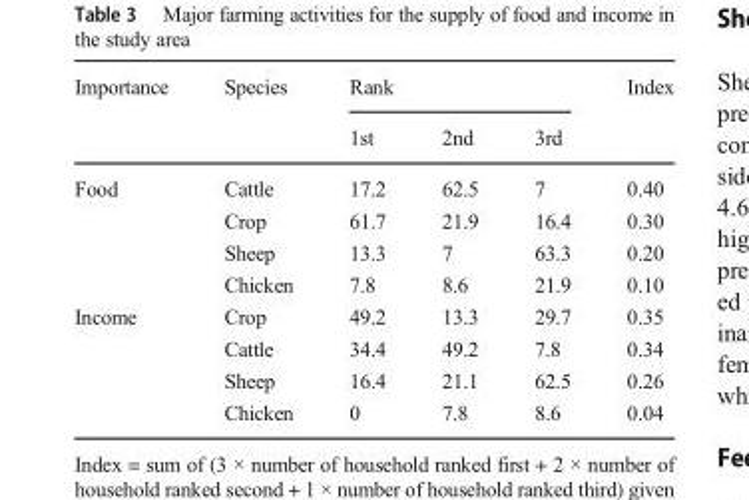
<table><thead><tr><td rowspan="2">Importance</td><td rowspan="2">Species</td><td colspan="3">Rank</td><td rowspan="2">Index</td></tr><tr><td>1st</td><td>2nd</td><td>3rd</td></tr></thead><tbody><tr><td rowspan="4">Food</td><td>Cattle</td><td>17.2</td><td>62.5</td><td>7</td><td>0.40</td></tr><tr><td>Crop</td><td>61.7</td><td>21.9</td><td>16.4</td><td>0.30</td></tr><tr><td>Sheep</td><td>13.3</td><td>7</td><td>63.3</td><td>0.20</td></tr><tr><td>Chicken</td><td>7.8</td><td>8.6</td><td>21.9</td><td>0.10</td></tr><tr><td rowspan="4">Income</td><td>Crop</td><td>49.2</td><td>13.3</td><td>29.7</td><td>0.35</td></tr><tr><td>Cattle</td><td>34.4</td><td>49.2</td><td>7.8</td><td>0.34</td></tr><tr><td>Sheep</td><td>16.4</td><td>21.1</td><td>62.5</td><td>0.26</td></tr><tr><td>Chicken</td><td>0</td><td>7.8</td><td>8.6</td><td>0.04</td></tr></tbody></table>